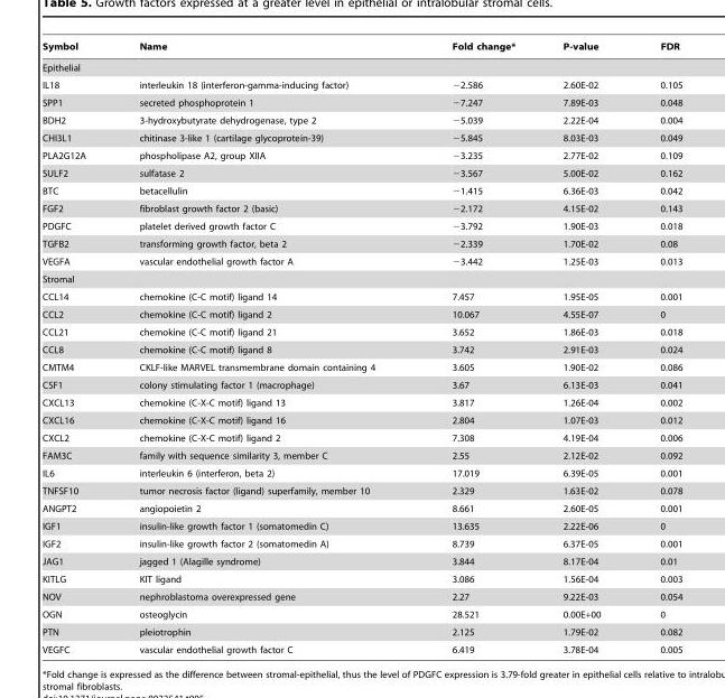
<table><thead><tr><td>Symbol</td><td>Name</td><td>Fold change*</td><td>P-value</td><td>FDR</td></tr></thead><tbody><tr><td colspan="5">Epithelial</td></tr><tr><td>IL18</td><td>interleukin 18 (interferon-gamma-inducing factor)</td><td>−2.586</td><td>2.60E-02</td><td>0.105</td></tr><tr><td>SPP1</td><td>secreted phosphoprotein 1</td><td>−7.247</td><td>7.89E-03</td><td>0.048</td></tr><tr><td>BDH2</td><td>3-hydroxybutyrate dehydrogenase, type 2</td><td>−5.039</td><td>2.22E-04</td><td>0.004</td></tr><tr><td>CHI3L1</td><td>chitinase 3-like 1 (cartilage glycoprotein-39)</td><td>−5.845</td><td>8.03E-03</td><td>0.049</td></tr><tr><td>PLA2G12A</td><td>phospholipase A2, group XIIA</td><td>−3.235</td><td>2.77E-02</td><td>0.109</td></tr><tr><td>SULF2</td><td>sulfatase 2</td><td>−3.567</td><td>5.00E-02</td><td>0.162</td></tr><tr><td>BTC</td><td>betacellulin</td><td>−1.415</td><td>6.36E-03</td><td>0.042</td></tr><tr><td>FGF2</td><td>fibroblast growth factor 2 (basic)</td><td>−2.172</td><td>4.15E-02</td><td>0.143</td></tr><tr><td>PDGFC</td><td>platelet derived growth factor C</td><td>−3.792</td><td>1.90E-03</td><td>0.018</td></tr><tr><td>TGFB2</td><td>transforming growth factor, beta 2</td><td>−2.339</td><td>1.70E-02</td><td>0.08</td></tr><tr><td>VEGFA</td><td>vascular endothelial growth factor A</td><td>−3.442</td><td>1.25E-03</td><td>0.013</td></tr><tr><td colspan="5">Stromal</td></tr><tr><td>CCL14</td><td>chemokine (C-C motif) ligand 14</td><td>7.457</td><td>1.95E-05</td><td>0.001</td></tr><tr><td>CCL2</td><td>chemokine (C-C motif) ligand 2</td><td>10.067</td><td>4.55E-07</td><td>0</td></tr><tr><td>CCL21</td><td>chemokine (C-C motif) ligand 21</td><td>3.652</td><td>1.86E-03</td><td>0.018</td></tr><tr><td>CCL8</td><td>chemokine (C-C motif) ligand 8</td><td>3.742</td><td>2.91E-03</td><td>0.024</td></tr><tr><td>CMTM4</td><td>CKLF-like MARVEL transmembrane domain containing 4</td><td>3.605</td><td>1.90E-02</td><td>0.086</td></tr><tr><td>CSF1</td><td>colony stimulating factor 1 (macrophage)</td><td>3.67</td><td>6.13E-03</td><td>0.041</td></tr><tr><td>CXCL13</td><td>chemokine (C-X-C motif) ligand 13</td><td>3.817</td><td>1.26E-04</td><td>0.002</td></tr><tr><td>CXCL16</td><td>chemokine (C-X-C motif) ligand 16</td><td>2.804</td><td>1.07E-03</td><td>0.012</td></tr><tr><td>CXCL2</td><td>chemokine (C-X-C motif) ligand 2</td><td>7.308</td><td>4.19E-04</td><td>0.006</td></tr><tr><td>FAM3C</td><td>family with sequence similarity 3, member C</td><td>2.55</td><td>2.12E-02</td><td>0.092</td></tr><tr><td>IL6</td><td>interleukin 6 (interferon, beta 2)</td><td>17.019</td><td>6.39E-05</td><td>0.001</td></tr><tr><td>TNFSF10</td><td>tumor necrosis factor (ligand) superfamily, member 10</td><td>2.329</td><td>1.63E-02</td><td>0.078</td></tr><tr><td>ANGPT2</td><td>angiopoietin 2</td><td>8.661</td><td>2.60E-05</td><td>0.001</td></tr><tr><td>IGF1</td><td>insulin-like growth factor 1 (somatomedin C)</td><td>13.635</td><td>2.22E-06</td><td>0</td></tr><tr><td>IGF2</td><td>insulin-like growth factor 2 (somatomedin A)</td><td>8.739</td><td>6.37E-05</td><td>0.001</td></tr><tr><td>JAG1</td><td>jagged 1 (Alagille syndrome)</td><td>3.844</td><td>8.17E-04</td><td>0.01</td></tr><tr><td>KITLG</td><td>KIT ligand</td><td>3.086</td><td>1.56E-04</td><td>0.003</td></tr><tr><td>NOV</td><td>nephroblastoma overexpressed gene</td><td>2.27</td><td>9.22E-03</td><td>0.054</td></tr><tr><td>OGN</td><td>osteoglycin</td><td>28.521</td><td>0.00E+00</td><td>0</td></tr><tr><td>PTN</td><td>pleiotrophin</td><td>2.125</td><td>1.79E-02</td><td>0.082</td></tr><tr><td>VEGFC</td><td>vascular endothelial growth factor C</td><td>6.419</td><td>3.78E-04</td><td>0.005</td></tr></tbody></table>